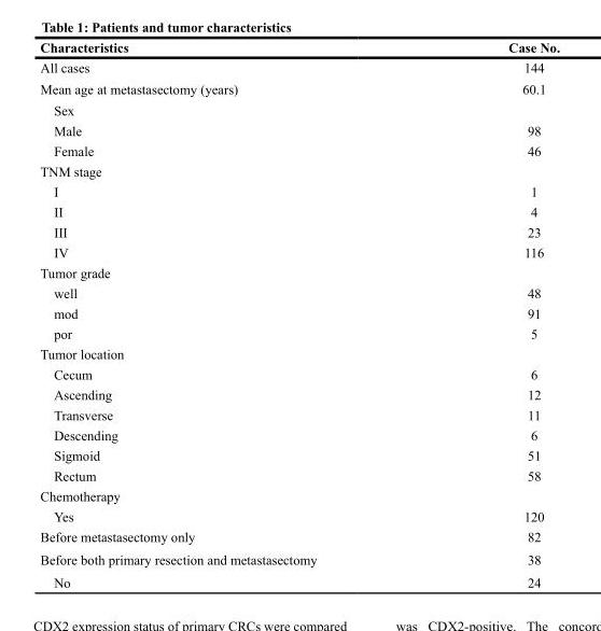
<table><thead><tr><td>Characteristics</td><td>Case No.</td></tr></thead><tbody><tr><td>All cases</td><td>144</td></tr><tr><td>Mean age at metastasectomy (years)</td><td>60.1</td></tr><tr><td colspan="2">Sex</td></tr><tr><td>Male</td><td>98</td></tr><tr><td>Female</td><td>46</td></tr><tr><td colspan="2">TNM stage</td></tr><tr><td>I</td><td>1</td></tr><tr><td>II</td><td>4</td></tr><tr><td>III</td><td>23</td></tr><tr><td>IV</td><td>116</td></tr><tr><td colspan="2">Tumor grade</td></tr><tr><td>well</td><td>48</td></tr><tr><td>mod</td><td>91</td></tr><tr><td>por</td><td>5</td></tr><tr><td colspan="2">Tumor location</td></tr><tr><td>Cecum</td><td>6</td></tr><tr><td>Ascending</td><td>12</td></tr><tr><td>Transverse</td><td>11</td></tr><tr><td>Descending</td><td>6</td></tr><tr><td>Sigmoid</td><td>51</td></tr><tr><td>Rectum</td><td>58</td></tr><tr><td colspan="2">Chemotherapy</td></tr><tr><td>Yes</td><td>120</td></tr><tr><td>Before metastasectomy only</td><td>82</td></tr><tr><td>Before both primary resection and metastasectomy</td><td>38</td></tr><tr><td>No</td><td>24</td></tr></tbody></table>